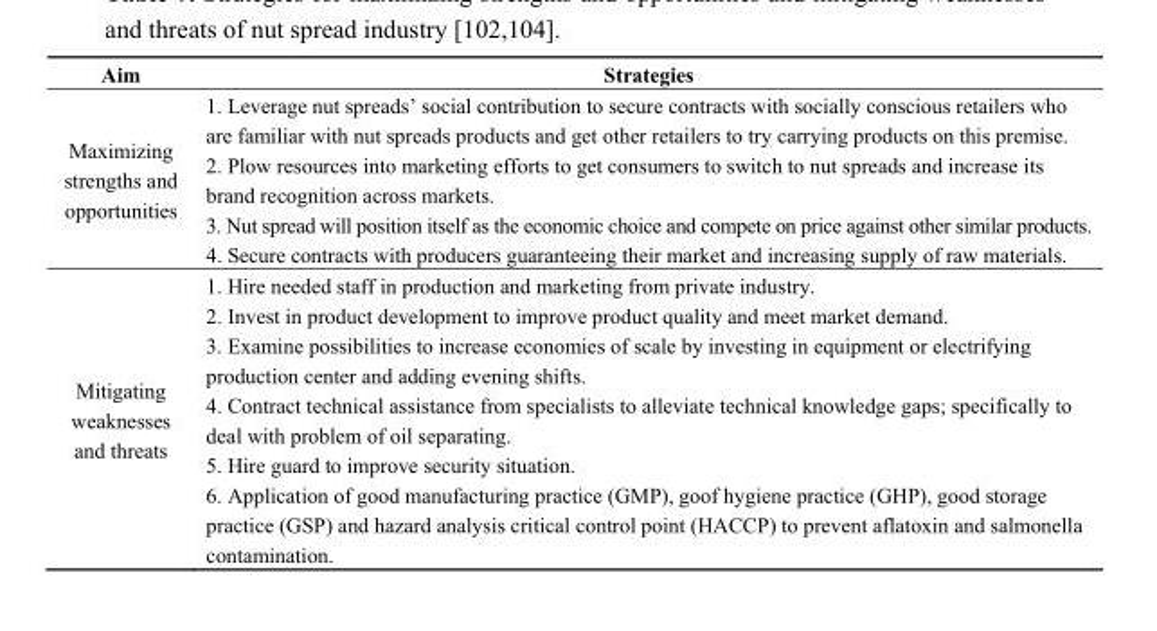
<table><thead><tr><td>Aim</td><td>Strategies</td></tr></thead><tbody><tr><td>Maximizing strengths and opportunities</td><td>1. Leverage nut spreads’ social contribution to secure contracts with socially conscious retailers who are familiar with nut spreads products and get other retailers to try carrying products on this premise. 2. Plow resources into marketing efforts to get consumers to switch to nut spreads and increase its brand recognition across markets. 3. Nut spread will position itself as the economic choice and compete on price against other similar products. 4. Secure contracts with producers guaranteeing their market and increasing supply of raw materials.</td></tr><tr><td>Mitigating weaknesses and threats</td><td>1. Hire needed staff in production and marketing from private industry. 2. Invest in product development to improve product quality and meet market demand. 3. Examine possibilities to increase economies of scale by investing in equipment or electrifying production center and adding evening shifts. 4. Contract technical assistance from specialists to alleviate technical knowledge gaps; specifically to deal with problem of oil separating. 5. Hire guard to improve security situation. 6. Application of good manufacturing practice (GMP), goof hygiene practice (GHP), good storage practice (GSP) and hazard analysis critical control point (HACCP) to prevent aflatoxin and salmonella contamination.</td></tr></tbody></table>